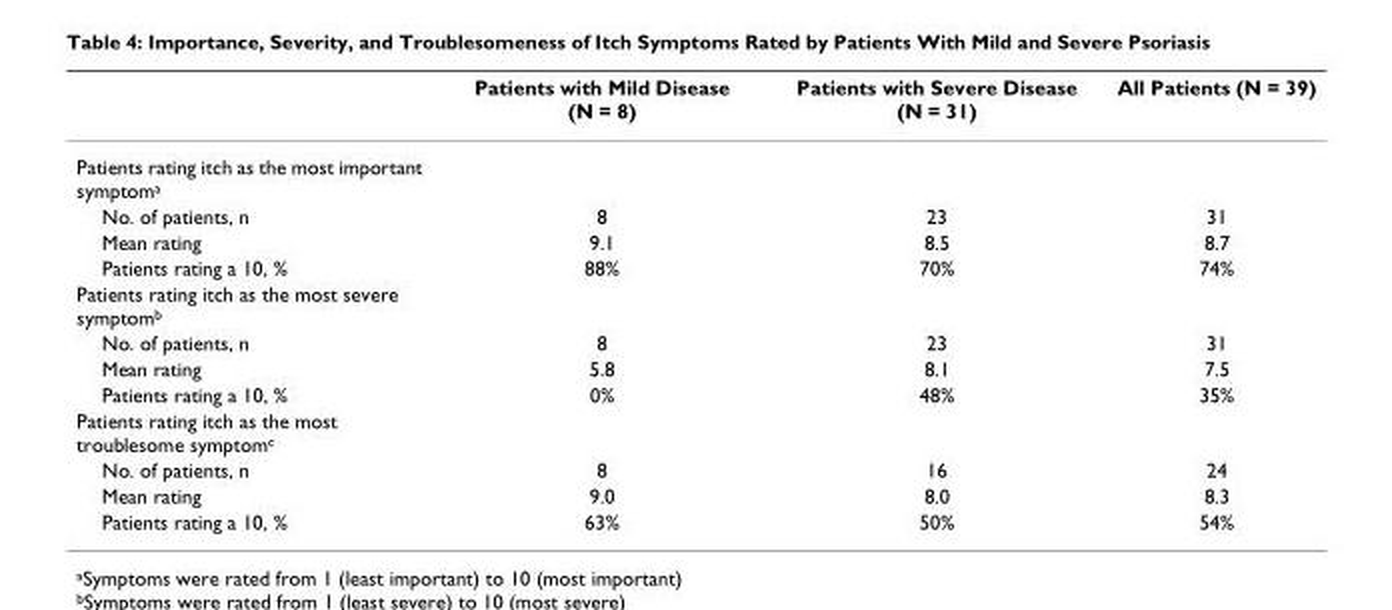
<table><thead><tr><td></td><td>Patients with Mild Disease (N = 8)</td><td>Patients with Severe Disease (N = 31)</td><td>All Patients (N = 39)</td></tr></thead><tbody><tr><td colspan="4">Patients rating itch as the most important symptom<sup>a</sup></td></tr><tr><td>No. of patients, n</td><td>8</td><td>23</td><td>31</td></tr><tr><td>Mean rating</td><td>9.1</td><td>8.5</td><td>8.7</td></tr><tr><td>Patients rating a 10, %</td><td>88%</td><td>70%</td><td>74%</td></tr><tr><td colspan="4">Patients rating itch as the most severe symptom<sup>b</sup></td></tr><tr><td>No. of patients, n</td><td>8</td><td>23</td><td>31</td></tr><tr><td>Mean rating</td><td>5.8</td><td>8.1</td><td>7.5</td></tr><tr><td>Patients rating a 10, %</td><td>0%</td><td>48%</td><td>35%</td></tr><tr><td colspan="4">Patients rating itch as the most troublesome symptom<sup>c</sup></td></tr><tr><td>No. of patients, n</td><td>8</td><td>16</td><td>24</td></tr><tr><td>Mean rating</td><td>9.0</td><td>8.0</td><td>8.3</td></tr><tr><td>Patients rating a 10, %</td><td>63%</td><td>50%</td><td>54%</td></tr></tbody></table>